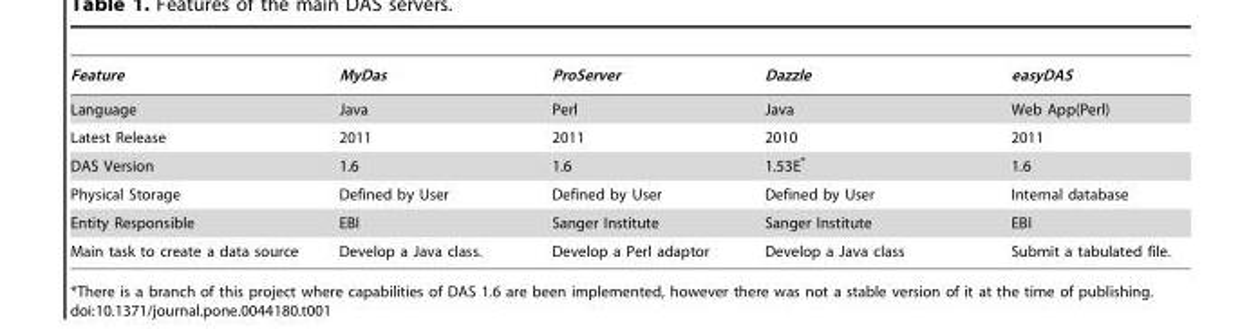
<table><thead><tr><td>Feature</td><td>MyDas</td><td>ProServer</td><td>Dazzle</td><td>easyDAS</td></tr></thead><tbody><tr><td>Language</td><td>Java</td><td>Perl</td><td>Java</td><td>Web App(Perl)</td></tr><tr><td>Latest Release</td><td>2011</td><td>2011</td><td>2010</td><td>2011</td></tr><tr><td>DAS Version</td><td>1.6</td><td>1.6</td><td>1.53E*</td><td>1.6</td></tr><tr><td>Physical Storage</td><td>Defined by User</td><td>Defined by User</td><td>Defined by User</td><td>Internal database</td></tr><tr><td>Entity Responsible</td><td>EBI</td><td>Sanger Institute</td><td>Sanger Institute</td><td>EBI</td></tr><tr><td>Main task to create a data source</td><td>Develop a Java class.</td><td>Develop a Perl adaptor</td><td>Develop a Java class</td><td>Submit a tabulated file.</td></tr></tbody></table>